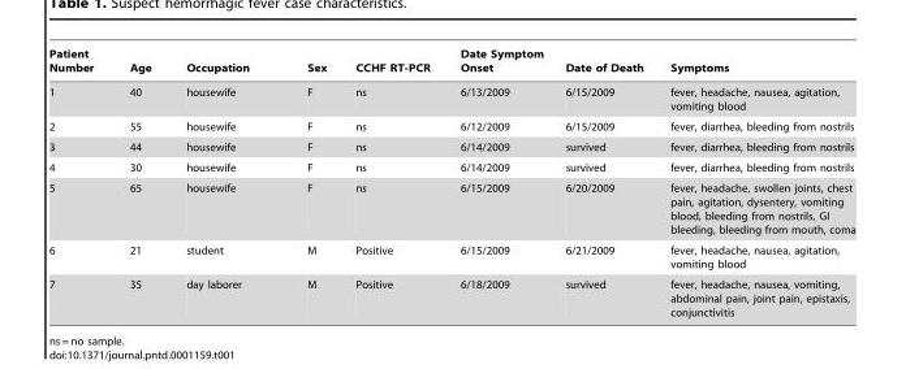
<table><thead><tr><td>Patient Number</td><td>Age</td><td>Occupation</td><td>Sex</td><td>CCHF RT-PCR</td><td>Date Symptom Onset</td><td>Date of Death</td><td>Symptoms</td></tr></thead><tbody><tr><td>1</td><td>40</td><td>housewife</td><td>F</td><td>ns</td><td>6/13/2009</td><td>6/15/2009</td><td>fever, headache, nausea, agitation, vomiting blood</td></tr><tr><td>2</td><td>55</td><td>housewife</td><td>F</td><td>ns</td><td>6/12/2009</td><td>6/15/2009</td><td>fever, diarrhea, bleeding from nostrils</td></tr><tr><td>3</td><td>44</td><td>housewife</td><td>F</td><td>ns</td><td>6/14/2009</td><td>survived</td><td>fever, diarrhea, bleeding from nostrils</td></tr><tr><td>4</td><td>30</td><td>housewife</td><td>F</td><td>ns</td><td>6/14/2009</td><td>survived</td><td>fever, diarrhea, bleeding from nostrils</td></tr><tr><td>5</td><td>65</td><td>housewife</td><td>F</td><td>ns</td><td>6/15/2009</td><td>6/20/2009</td><td>fever, headache, swollen joints, chest pain, agitation, dysentery, vomiting blood, bleeding from nostrils, GI bleeding, bleeding from mouth, coma</td></tr><tr><td>6</td><td>21</td><td>student</td><td>M</td><td>Positive</td><td>6/15/2009</td><td>6/21/2009</td><td>fever, headache, nausea, agitation, vomiting blood</td></tr><tr><td>7</td><td>35</td><td>day laborer</td><td>M</td><td>Positive</td><td>6/18/2009</td><td>survived</td><td>fever, headache, nausea, vomiting, abdominal pain, joint pain, epistaxis, conjunctivitis</td></tr></tbody></table>